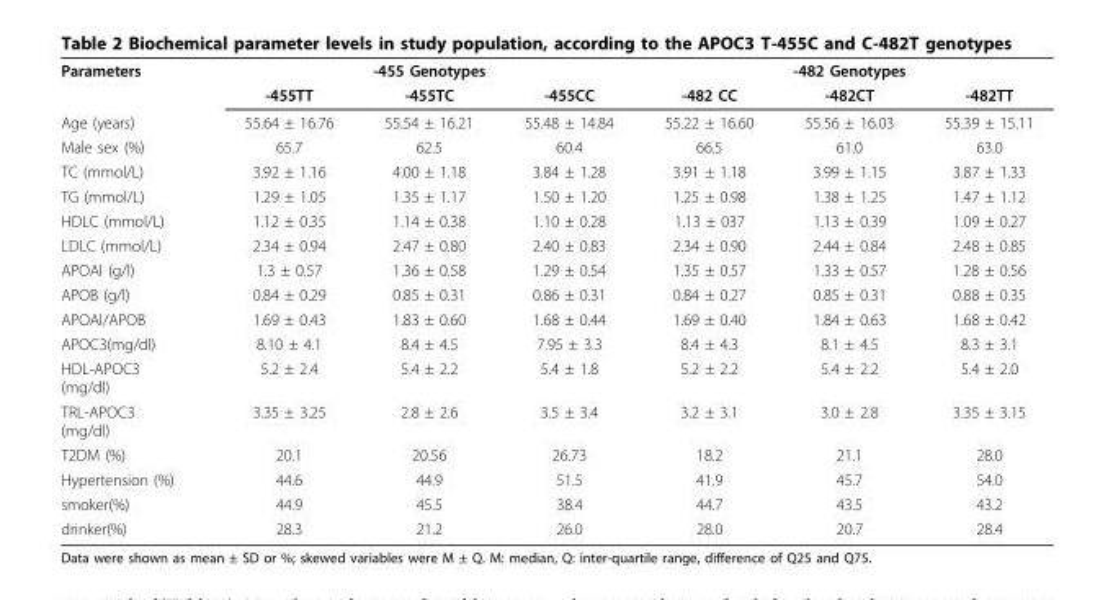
<table><tbody><tr><td rowspan="2">Parameters</td><td colspan="3">-455 Genotypes</td><td colspan="3">-482 Genotypes</td></tr><tr><td>-455TT</td><td>-455TC</td><td>-455CC</td><td>-482 CC</td><td>-482CT</td><td>-482TT</td></tr><tr><td>Age (years)</td><td>55.64 ± 16.76</td><td>55.54 ± 16.21</td><td>55.48 ± 14.84</td><td>55.22 ± 16.60</td><td>55.56 ± 16.03</td><td>55.39 ± 15.11</td></tr><tr><td>Male sex (%)</td><td>65.7</td><td>62.5</td><td>60.4</td><td>66.5</td><td>61.0</td><td>63.0</td></tr><tr><td>TC (mmol/L)</td><td>3.92 ± 1.16</td><td>4.00 ± 1.18</td><td>3.84 ± 1.28</td><td>3.91 ± 1.18</td><td>3.99 ± 1.15</td><td>3.87 ± 1.33</td></tr><tr><td>TG (mmol/L)</td><td>1.29 ± 1.05</td><td>1.35 ± 1.17</td><td>1.50 ± 1.20</td><td>1.25 ± 0.98</td><td>1.38 ± 1.25</td><td>1.47 ± 1.12</td></tr><tr><td>HDLC (mmol/L)</td><td>1.12 ± 0.35</td><td>1.14 ± 0.38</td><td>1.10 ± 0.28</td><td>1.13 ± 037</td><td>1.13 ± 0.39</td><td>1.09 ± 0.27</td></tr><tr><td>LDLC (mmol/L)</td><td>2.34 ± 0.94</td><td>2.47 ± 0.80</td><td>2.40 ± 0.83</td><td>2.34 ± 0.90</td><td>2.44 ± 0.84</td><td>2.48 ± 0.85</td></tr><tr><td>APOAl (g/l)</td><td>1.3 ± 0.57</td><td>1.36 ± 0.58</td><td>1.29 ± 0.54</td><td>1.35 ± 0.57</td><td>1.33 ± 0.57</td><td>1.28 ± 0.56</td></tr><tr><td>APOB (g/l)</td><td>0.84 ± 0.29</td><td>0.85 ± 0.31</td><td>0.86 ± 0.31</td><td>0.84 ± 0.27</td><td>0.85 ± 0.31</td><td>0.88 ± 0.35</td></tr><tr><td>APOAl/APOB</td><td>1.69 ± 0.43</td><td>1.83 ± 0.60</td><td>1.68 ± 0.44</td><td>1.69 ± 0.40</td><td>1.84 ± 0.63</td><td>1.68 ± 0.42</td></tr><tr><td>APOC3(mg/dl)</td><td>8.10 ± 4.1</td><td>8.4 ± 4.5</td><td>7.95 ± 3.3</td><td>8.4 ± 4.3</td><td>8.1 ± 4.5</td><td>8.3 ± 3.1</td></tr><tr><td>HDL-APOC3 (mg/dl)</td><td>5.2 ± 2.4</td><td>5.4 ± 2.2</td><td>5.4 ± 1.8</td><td>5.2 ± 2.2</td><td>5.4 ± 2.2</td><td>5.4 ± 2.0</td></tr><tr><td>TRL-APOC3 (mg/dl)</td><td>3.35 ± 3.25</td><td>2.8 ± 2.6</td><td>3.5 ± 3.4</td><td>3.2 ± 3.1</td><td>3.0 ± 2.8</td><td>3.35 ± 3.15</td></tr><tr><td>T2DM (%)</td><td>20.1</td><td>20.56</td><td>26.73</td><td>18.2</td><td>21.1</td><td>28.0</td></tr><tr><td>Hypertension (%)</td><td>44.6</td><td>44.9</td><td>51.5</td><td>41.9</td><td>45.7</td><td>54.0</td></tr><tr><td>smoker(%)</td><td>44.9</td><td>45.5</td><td>38.4</td><td>44.7</td><td>43.5</td><td>43.2</td></tr><tr><td>drinker(%)</td><td>28.3</td><td>21.2</td><td>26.0</td><td>28.0</td><td>20.7</td><td>28.4</td></tr></tbody></table>